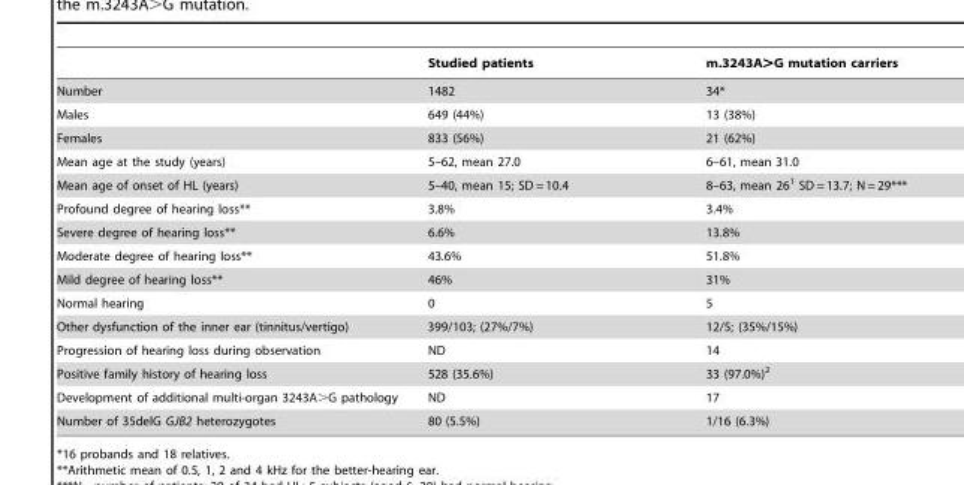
<table><thead><tr><td></td><td>Studied patients</td><td>m.3243A&gt;G mutation carriers</td></tr></thead><tbody><tr><td>Number</td><td>1482</td><td>34*</td></tr><tr><td>Males</td><td>649 (44%)</td><td>13 (38%)</td></tr><tr><td>Females</td><td>833 (56%)</td><td>21 (62%)</td></tr><tr><td>Mean age at the study (years)</td><td>5–62, mean 27.0</td><td>6–61, mean 31.0</td></tr><tr><td>Mean age of onset of HL (years)</td><td>5–40, mean 15; SD = 10.4</td><td>8–63, mean 26<sup>1</sup> SD = 13.7; N = 29***</td></tr><tr><td>Profound degree of hearing loss**</td><td>3.8%</td><td>3.4%</td></tr><tr><td>Severe degree of hearing loss**</td><td>6.6%</td><td>13.8%</td></tr><tr><td>Moderate degree of hearing loss**</td><td>43.6%</td><td>51.8%</td></tr><tr><td>Mild degree of hearing loss**</td><td>46%</td><td>31%</td></tr><tr><td>Normal hearing</td><td>0</td><td>5</td></tr><tr><td>Other dysfunction of the inner ear (tinnitus/vertigo)</td><td>399/103; (27%/7%)</td><td>12/5; (35%/15%)</td></tr><tr><td>Progression of hearing loss during observation</td><td>ND</td><td>14</td></tr><tr><td>Positive family history of hearing loss</td><td>528 (35.6%)</td><td>33 (97.0%)<sup>2</sup></td></tr><tr><td>Development of additional multi-organ 3243A&gt;G pathology</td><td>ND</td><td>17</td></tr><tr><td>Number of 35delG GJB2 heterozygotes</td><td>80 (5.5%)</td><td>1/16 (6.3%)</td></tr></tbody></table>